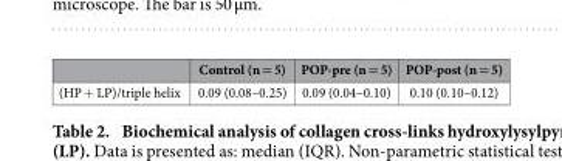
<table><thead><tr><td></td><td>Control (n = 5)</td><td>POP-pre (n = 5)</td><td>POP-post (n = 5)</td></tr></thead><tbody><tr><td>(HP + LP)/triple helix</td><td>0.09 (0.08–0.25)</td><td>0.09 (0.04–0.10)</td><td>0.10 (0.10–0.12)</td></tr></tbody></table>